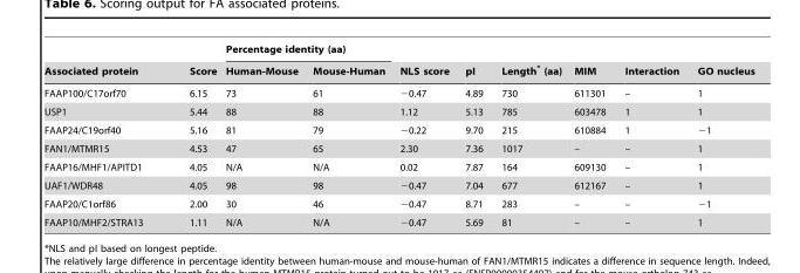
<table><thead><tr><td rowspan="2">Associated protein</td><td rowspan="2">Score</td><td colspan="2">Percentage identity (aa)</td><td rowspan="2">NLS score</td><td rowspan="2">pI</td><td rowspan="2">Length* (aa)</td><td rowspan="2">MIM</td><td rowspan="2">Interaction</td><td rowspan="2">GO nucleus</td></tr><tr><td>Human-Mouse</td><td>Mouse-Human</td></tr></thead><tbody><tr><td>FAAP100/C17orf70</td><td>6.15</td><td>73</td><td>61</td><td>−0.47</td><td>4.89</td><td>730</td><td>611301</td><td>–</td><td>1</td></tr><tr><td>USP1</td><td>5.44</td><td>88</td><td>88</td><td>1.12</td><td>5.13</td><td>785</td><td>603478</td><td>1</td><td>1</td></tr><tr><td>FAAP24/C19orf40</td><td>5.16</td><td>81</td><td>79</td><td>−0.22</td><td>9.70</td><td>215</td><td>610884</td><td>1</td><td>−1</td></tr><tr><td>FAN1/MTMR15</td><td>4.53</td><td>47</td><td>65</td><td>2.30</td><td>7.36</td><td>1017</td><td>–</td><td>–</td><td>1</td></tr><tr><td>FAAP16/MHF1/APITD1</td><td>4.05</td><td>N/A</td><td>N/A</td><td>0.02</td><td>7.87</td><td>164</td><td>609130</td><td>–</td><td>1</td></tr><tr><td>UAF1/WDR48</td><td>4.05</td><td>98</td><td>98</td><td>−0.47</td><td>7.04</td><td>677</td><td>612167</td><td>–</td><td>1</td></tr><tr><td>FAAP20/C1orf86</td><td>2.00</td><td>30</td><td>46</td><td>−0.47</td><td>8.71</td><td>283</td><td>–</td><td>–</td><td>−1</td></tr><tr><td>FAAP10/MHF2/STRA13</td><td>1.11</td><td>N/A</td><td>N/A</td><td>−0.47</td><td>5.69</td><td>81</td><td>–</td><td>–</td><td>1</td></tr></tbody></table>